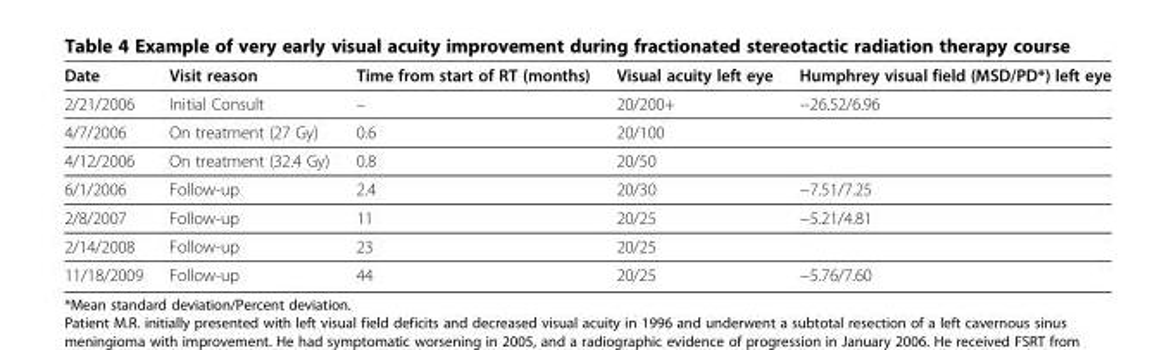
<table><thead><tr><td>Date</td><td>Visit reason</td><td>Time from start of RT (months)</td><td>Visual acuity left eye</td><td>Humphrey visual field (MSD/PD*) left eye</td></tr></thead><tbody><tr><td>2/21/2006</td><td>Initial Consult</td><td>–</td><td>20/200+</td><td>−26.52/6.96</td></tr><tr><td>4/7/2006</td><td>On treatment (27 Gy)</td><td>0.6</td><td>20/100</td><td></td></tr><tr><td>4/12/2006</td><td>On treatment (32.4 Gy)</td><td>0.8</td><td>20/50</td><td></td></tr><tr><td>6/1/2006</td><td>Follow-up</td><td>2.4</td><td>20/30</td><td>−7.51/7.25</td></tr><tr><td>2/8/2007</td><td>Follow-up</td><td>11</td><td>20/25</td><td>−5.21/4.81</td></tr><tr><td>2/14/2008</td><td>Follow-up</td><td>23</td><td>20/25</td><td></td></tr><tr><td>11/18/2009</td><td>Follow-up</td><td>44</td><td>20/25</td><td>−5.76/7.60</td></tr></tbody></table>